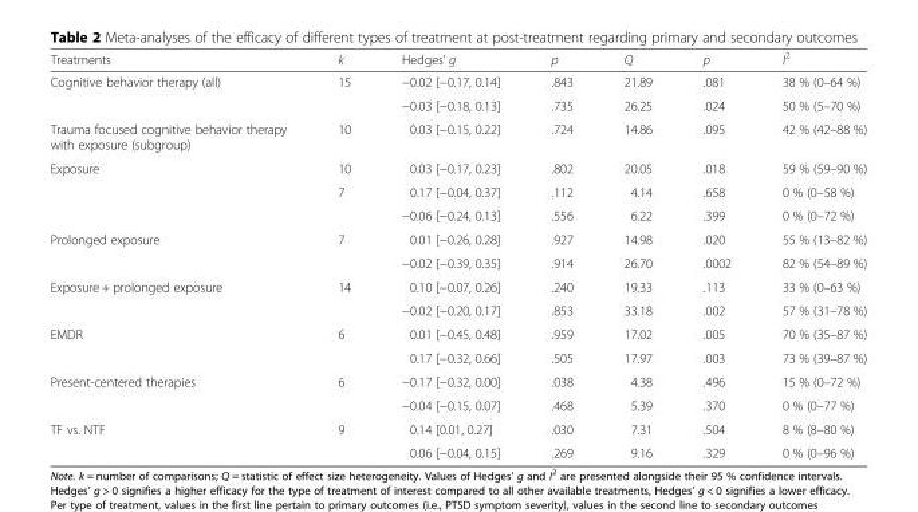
<table><thead><tr><td>Treatments</td><td>k</td><td>Hedges’ g</td><td>p</td><td>Q</td><td>p</td><td>I<sup>2</sup></td></tr></thead><tbody><tr><td rowspan="2">Cognitive behavior therapy (all)</td><td>15</td><td>−0.02 [−0.17, 0.14]</td><td>.843</td><td>21.89</td><td>.081</td><td>38 % (0–64 %)</td></tr><tr><td></td><td>−0.03 [−0.18, 0.13]</td><td>.735</td><td>26.25</td><td>.024</td><td>50 % (5–70 %)</td></tr><tr><td>Trauma focused cognitive behavior therapy with exposure (subgroup)</td><td>10</td><td>0.03 [−0.15, 0.22]</td><td>.724</td><td>14.86</td><td>.095</td><td>42 % (42–88 %)</td></tr><tr><td rowspan="3">Exposure</td><td>10</td><td>0.03 [−0.17, 0.23]</td><td>.802</td><td>20.05</td><td>.018</td><td>59 % (59–90 %)</td></tr><tr><td>7</td><td>0.17 [−0.04, 0.37]</td><td>.112</td><td>4.14</td><td>.658</td><td>0 % (0–58 %)</td></tr><tr><td></td><td>−0.06 [−0.24, 0.13]</td><td>.556</td><td>6.22</td><td>.399</td><td>0 % (0–72 %)</td></tr><tr><td rowspan="2">Prolonged exposure</td><td>7</td><td>0.01 [−0.26, 0.28]</td><td>.927</td><td>14.98</td><td>.020</td><td>55 % (13–82 %)</td></tr><tr><td></td><td>−0.02 [−0.39, 0.35]</td><td>.914</td><td>26.70</td><td>.0002</td><td>82 % (54–89 %)</td></tr><tr><td rowspan="2">Exposure + prolonged exposure</td><td>14</td><td>0.10 [−0.07, 0.26]</td><td>.240</td><td>19.33</td><td>.113</td><td>33 % (0–63 %)</td></tr><tr><td></td><td>−0.02 [−0.20, 0.17]</td><td>.853</td><td>33.18</td><td>.002</td><td>57 % (31–78 %)</td></tr><tr><td rowspan="2">EMDR</td><td>6</td><td>0.01 [−0.45, 0.48]</td><td>.959</td><td>17.02</td><td>.005</td><td>70 % (35–87 %)</td></tr><tr><td></td><td>0.17 [−0.32, 0.66]</td><td>.505</td><td>17.97</td><td>.003</td><td>73 % (39–87 %)</td></tr><tr><td rowspan="2">Present-centered therapies</td><td>6</td><td>−0.17 [−0.32, 0.00]</td><td>.038</td><td>4.38</td><td>.496</td><td>15 % (0–72 %)</td></tr><tr><td></td><td>−0.04 [−0.15, 0.07]</td><td>.468</td><td>5.39</td><td>.370</td><td>0 % (0–77 %)</td></tr><tr><td rowspan="2">TF vs. NTF</td><td>9</td><td>0.14 [0.01, 0.27]</td><td>.030</td><td>7.31</td><td>.504</td><td>8 % (8–80 %)</td></tr><tr><td></td><td>0.06 [−0.04, 0.15]</td><td>.269</td><td>9.16</td><td>.329</td><td>0 % (0–96 %)</td></tr></tbody></table>